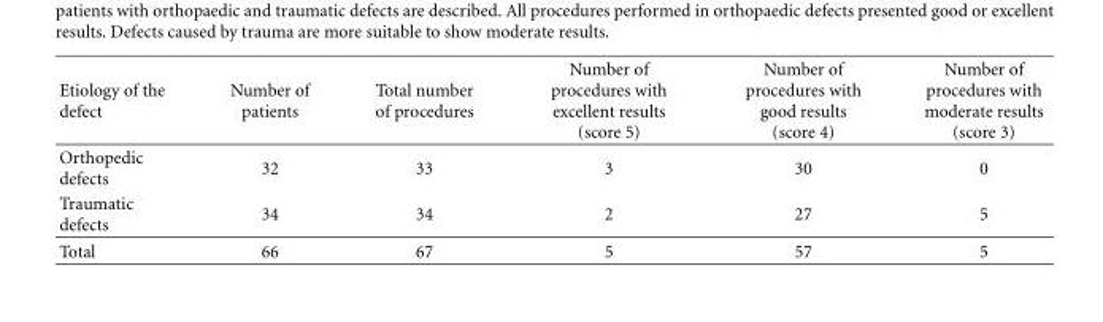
<table><thead><tr><td>Etiology of the defect</td><td>Number of patients</td><td>Total number of procedures</td><td>Number of procedures with excellent results (score 5)</td><td>Number of procedures with good results (score 4)</td><td>Number of procedures with moderate results (score 3)</td></tr></thead><tbody><tr><td>Orthopedic defects</td><td>32</td><td>33</td><td>3</td><td>30</td><td>0</td></tr><tr><td>Traumatic defects</td><td>34</td><td>34</td><td>2</td><td>27</td><td>5</td></tr><tr><td>Total</td><td>66</td><td>67</td><td>5</td><td>57</td><td>5</td></tr></tbody></table>